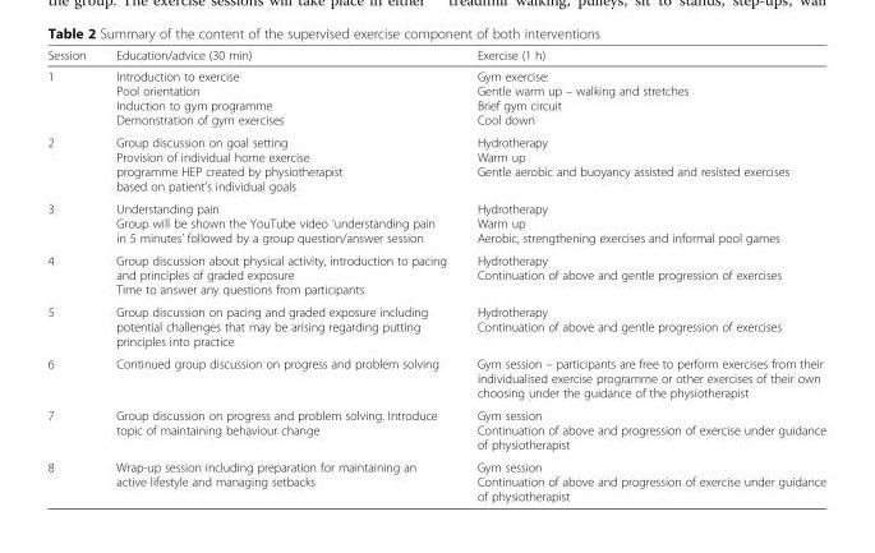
<table><thead><tr><td>Session</td><td>Education/advice (30 min)</td><td>Exercise (1 h)</td></tr></thead><tbody><tr><td>1</td><td>Introduction to exercise Pool orientation Induction to gym programme Demonstration of gym exercises</td><td>Gym exercise: Gentle warm up – walking and stretches Brief gym circuit Cool down</td></tr><tr><td>2</td><td>Group discussion on goal setting Provision of individual home exercise programme HEP created by physiotherapist based on patient’s individual goals</td><td>Hydrotherapy Warm up Gentle aerobic and buoyancy assisted and resisted exercises</td></tr><tr><td>3</td><td>Understanding pain Group will be shown the YouTube video ‘understanding pain in 5 minutes’ followed by a group question/answer session</td><td>Hydrotherapy Warm up Aerobic, strengthening exercises and informal pool games</td></tr><tr><td>4</td><td>Group discussion about physical activity, introduction to pacing and principles of graded exposure Time to answer any questions from participants</td><td>Hydrotherapy Continuation of above and gentle progression of exercises</td></tr><tr><td>5</td><td>Group discussion on pacing and graded exposure including potential challenges that may be arising regarding putting principles into practice</td><td>Hydrotherapy Continuation of above and gentle progression of exercises</td></tr><tr><td>6</td><td>Continued group discussion on progress and problem solving</td><td>Gym session – participants are free to perform exercises from their individualised exercise programme or other exercises of their own choosing under the guidance of the physiotherapist</td></tr><tr><td>7</td><td>Group discussion on progress and problem solving. Introduce topic of maintaining behaviour change</td><td>Gym session Continuation of above and progression of exercise under guidance of physiotherapist</td></tr><tr><td>8</td><td>Wrap-up session including preparation for maintaining an active lifestyle and managing setbacks</td><td>Gym session Continuation of above and progression of exercise under guidance of physiotherapist</td></tr></tbody></table>